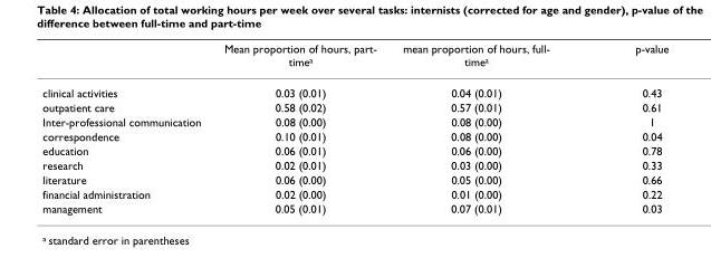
<table><thead><tr><td></td><td>Mean proportion of hours, part- timea</td><td>mean proportion of hours, full- timea</td><td>p-value</td></tr></thead><tbody><tr><td>clinical activities</td><td>0.03 (0.01)</td><td>0.04 (0.01)</td><td>0.43</td></tr><tr><td>outpatient care</td><td>0.58 (0.02)</td><td>0.57 (0.01)</td><td>0.61</td></tr><tr><td>Inter-professional communication</td><td>0.08 (0.00)</td><td>0.08 (0.00)</td><td>1</td></tr><tr><td>correspondence</td><td>0.10 (0.01)</td><td>0.08 (0.00)</td><td>0.04</td></tr><tr><td>education</td><td>0.06 (0.01)</td><td>0.06 (0.00)</td><td>0.78</td></tr><tr><td>research</td><td>0.02 (0.01)</td><td>0.03 (0.00)</td><td>0.33</td></tr><tr><td>literature</td><td>0.06 (0.00)</td><td>0.05 (0.00)</td><td>0.66</td></tr><tr><td>financial administration</td><td>0.02 (0.00)</td><td>0.01 (0.00)</td><td>0.22</td></tr><tr><td>management</td><td>0.05 (0.01)</td><td>0.07 (0.01)</td><td>0.03</td></tr></tbody></table>